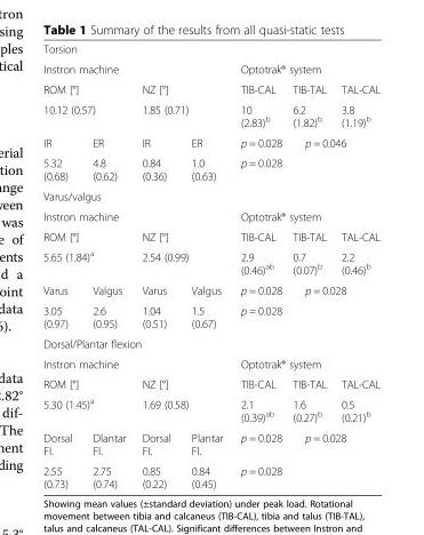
<table><tbody><tr><td colspan="7">Torsion</td></tr><tr><td colspan="4">Instron machine</td><td colspan="3">Optotrak® system</td></tr><tr><td colspan="2">ROM [°]</td><td colspan="2">NZ [°]</td><td>TIB-CAL</td><td>TIB-TAL</td><td>TAL-CAL</td></tr><tr><td colspan="2">10.12 (0.57)</td><td colspan="2">1.85 (0.71)</td><td>10 (2.83)<sup>b</sup></td><td>6.2 (1.82)<sup>b</sup></td><td>3.8 (1.19)<sup>b</sup></td></tr><tr><td>IR</td><td>ER</td><td>IR</td><td>ER</td><td colspan="3">p = 0.028 p = 0.046</td></tr><tr><td>5.32 (0.68)</td><td>4.8 (0.62)</td><td>0.84 (0.36)</td><td>1.0 (0.63)</td><td colspan="3">p = 0.028</td></tr><tr><td colspan="7">Varus/valgus</td></tr><tr><td colspan="4">Instron machine</td><td colspan="3">Optotrak® system</td></tr><tr><td colspan="2">ROM [°]</td><td colspan="2">NZ [°]</td><td>TIB-CAL</td><td>TIB-TAL</td><td>TAL-CAL</td></tr><tr><td colspan="2">5.65 (1.84)<sup>a</sup></td><td colspan="2">2.54 (0.99)</td><td>2.9 (0.46)<sup>ab</sup></td><td>0.7 (0.07)<sup>b</sup></td><td>2.2 (0.46)<sup>b</sup></td></tr><tr><td>Varus</td><td>Valgus</td><td>Varus</td><td>Valgus</td><td colspan="3">p = 0.028 p = 0.028</td></tr><tr><td>3.05 (0.97)</td><td>2.6 (0.95)</td><td>1.04 (0.51)</td><td>1.5 (0.67)</td><td colspan="3">p = 0.028</td></tr><tr><td colspan="7">Dorsal/Plantar flexion</td></tr><tr><td colspan="4">Instron machine</td><td colspan="3">Optotrak® system</td></tr><tr><td colspan="2">ROM [°]</td><td colspan="2">NZ [°]</td><td>TIB-CAL</td><td>TIB-TAL</td><td>TAL-CAL</td></tr><tr><td colspan="2">5.30 (1.45)<sup>a</sup></td><td colspan="2">1.69 (0.58)</td><td>2.1 (0.39)<sup>ab</sup></td><td>1.6 (0.27)<sup>b</sup></td><td>0.5 (0.21)<sup>b</sup></td></tr><tr><td>Dorsal Fl.</td><td>Dlantar Fl.</td><td>Dorsal Fl.</td><td>Plantar Fl.</td><td colspan="3">p = 0.028 p = 0.028</td></tr><tr><td>2.55 (0.73)</td><td>2.75 (0.74)</td><td>0.85 (0.22)</td><td>0.84 (0.45)</td><td>p = 0.028</td><td></td><td></td></tr></tbody></table>